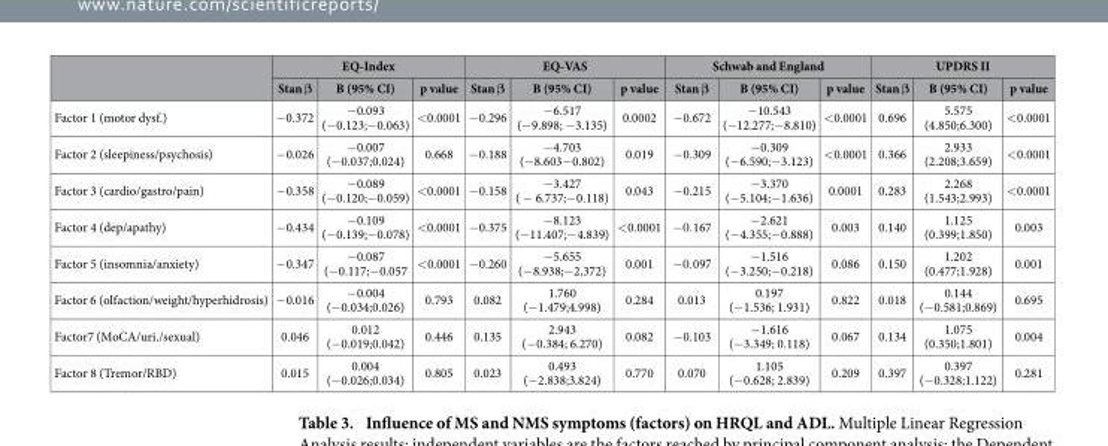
<table><thead><tr><td rowspan="2"></td><td colspan="3">EQ-Index</td><td colspan="3">EQ-VAS</td><td colspan="3">Schwab and England</td><td colspan="3">UPDRS II</td></tr><tr><td>Stan β</td><td>B (95% CI)</td><td>p value</td><td>Stan β</td><td>B (95% CI)</td><td>p value</td><td>Stan β</td><td>B (95% CI)</td><td>p value</td><td>Stan β</td><td>B (95% CI)</td><td>p value</td></tr></thead><tbody><tr><td>Factor 1 (motor dysf.)</td><td>−0.372</td><td>−0.093 (−0.123;−0.063)</td><td>&lt;0.0001</td><td>−0.296</td><td>−6.517 (−9.898; −3.135)</td><td>0.0002</td><td>−0.672</td><td>−10.543 (−12.277;−8.810)</td><td>&lt;0.0001</td><td>0.696</td><td>5.575 (4.850;6.300)</td><td>&lt;0.0001</td></tr><tr><td>Factor 2 (sleepiness/psychosis)</td><td>−0.026</td><td>−0.007 (−0.037;0.024)</td><td>0.668</td><td>−0.188</td><td>−4.703 (−8.603−0.802)</td><td>0.019</td><td>−0.309</td><td>−0.309 (−6.590;−3.123)</td><td>&lt;0.0001</td><td>0.366</td><td>2.933 (2.208;3.659)</td><td>&lt;0.0001</td></tr><tr><td>Factor 3 (cardio/gastro/pain)</td><td>−0.358</td><td>−0.089 (−0.120;−0.059)</td><td>&lt;0.0001</td><td>−0.158</td><td>−3.427 ( − 6.737;−0.118)</td><td>0.043</td><td>−0.215</td><td>−3.370 (−5.104;−1.636)</td><td>0.0001</td><td>0.283</td><td>2.268 (1.543;2.993)</td><td>&lt;0.0001</td></tr><tr><td>Factor 4 (dep/apathy)</td><td>−0.434</td><td>−0.109 (−0.139;−0.078)</td><td>&lt;0.0001</td><td>−0.375</td><td>−8.123 (−11.407;−4.839)</td><td>&lt;0.0001</td><td>−0.167</td><td>−2.621 (−4.355;−0.888)</td><td>0.003</td><td>0.140</td><td>1.125 (0.399;1.850)</td><td>0.003</td></tr><tr><td>Factor 5 (insomnia/anxiety)</td><td>−0.347</td><td>−0.087 (−0.117;−0.057</td><td>&lt;0.0001</td><td>−0.260</td><td>−5.655 (−8.938;−2,372)</td><td>0.001</td><td>−0.097</td><td>−1.516 (−3.250;−0.218)</td><td>0.086</td><td>0.150</td><td>1.202 (0.477;1.928)</td><td>0.001</td></tr><tr><td>Factor 6 (olfaction/weight/hyperhidrosis)</td><td>−0.016</td><td>−0.004 (−0.034;0.026)</td><td>0.793</td><td>0.082</td><td>1.760 (−1.479;4.998)</td><td>0.284</td><td>0.013</td><td>0.197 (−1.536; 1.931)</td><td>0.822</td><td>0.018</td><td>0.144 (−0.581;0.869)</td><td>0.695</td></tr><tr><td>Factor7 (MoCA/uri./sexual)</td><td>0.046</td><td>0.012 (−0.019;0.042)</td><td>0.446</td><td>0.135</td><td>2.943 (−0.384; 6.270)</td><td>0.082</td><td>−0.103</td><td>−1.616 (−3.349; 0.118)</td><td>0.067</td><td>0.134</td><td>1.075 (0.350;1.801)</td><td>0.004</td></tr><tr><td>Factor 8 (Tremor/RBD)</td><td>0.015</td><td>0.004 (−0.026;0.034)</td><td>0.805</td><td>0.023</td><td>0.493 (−2.838;3.824)</td><td>0.770</td><td>0.070</td><td>1.105 (−0.628; 2.839)</td><td>0.209</td><td>0.397</td><td>0.397 (−0.328;1.122)</td><td>0.281</td></tr></tbody></table>